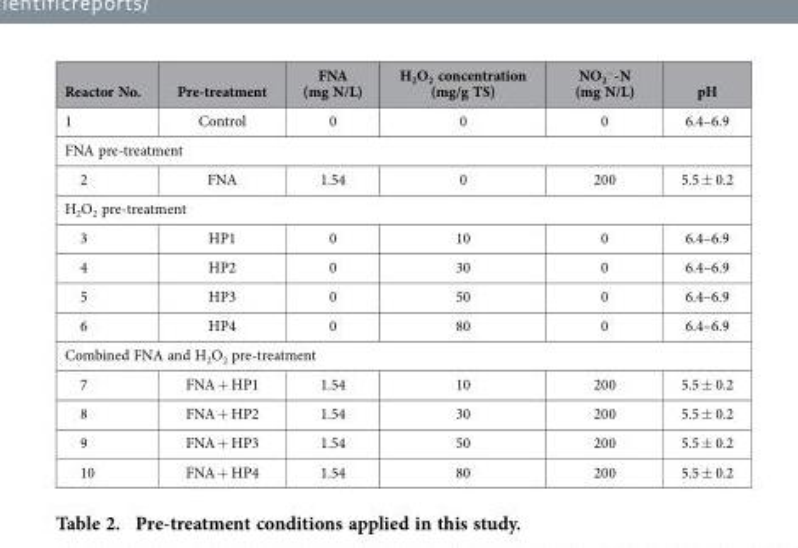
<table><thead><tr><td>Reactor No.</td><td>Pre-treatment</td><td>FNA (mg N/L)</td><td>H<sub>2</sub>O<sub>2</sub> concentration (mg/g TS)</td><td>NO<sub>2</sub> <sup>−</sup>-N (mg N/L)</td><td>pH</td></tr></thead><tbody><tr><td>1</td><td>Control</td><td>0</td><td>0</td><td>0</td><td>6.4–6.9</td></tr><tr><td colspan="6">FNA pre-treatment</td></tr><tr><td>2</td><td>FNA</td><td>1.54</td><td>0</td><td>200</td><td>5.5 ± 0.2</td></tr><tr><td colspan="6">H<sub>2</sub>O<sub>2</sub> pre-treatment</td></tr><tr><td>3</td><td>HP1</td><td>0</td><td>10</td><td>0</td><td>6.4–6.9</td></tr><tr><td>4</td><td>HP2</td><td>0</td><td>30</td><td>0</td><td>6.4–6.9</td></tr><tr><td>5</td><td>HP3</td><td>0</td><td>50</td><td>0</td><td>6.4–6.9</td></tr><tr><td>6</td><td>HP4</td><td>0</td><td>80</td><td>0</td><td>6.4–6.9</td></tr><tr><td colspan="6">Combined FNA and H<sub>2</sub>O<sub>2</sub> pre-treatment</td></tr><tr><td>7</td><td>FNA + HP1</td><td>1.54</td><td>10</td><td>200</td><td>5.5 ± 0.2</td></tr><tr><td>8</td><td>FNA + HP2</td><td>1.54</td><td>30</td><td>200</td><td>5.5 ± 0.2</td></tr><tr><td>9</td><td>FNA + HP3</td><td>1.54</td><td>50</td><td>200</td><td>5.5 ± 0.2</td></tr><tr><td>10</td><td>FNA + HP4</td><td>1.54</td><td>80</td><td>200</td><td>5.5 ± 0.2</td></tr></tbody></table>